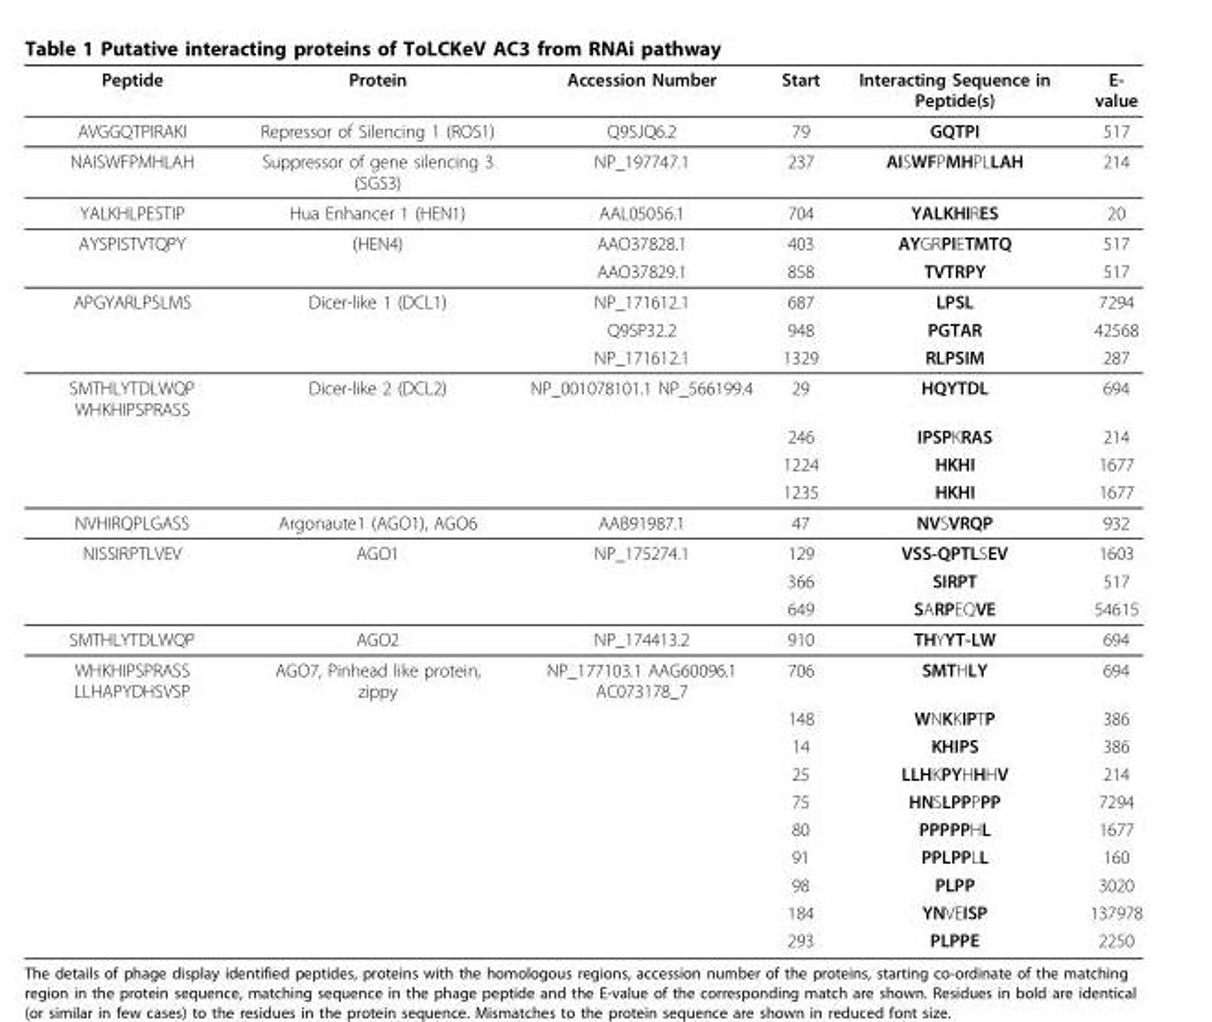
<table><thead><tr><td>Peptide</td><td>Protein</td><td>Accession Number</td><td>Start</td><td>Interacting Sequence in Peptide(s)</td><td>E- value</td></tr></thead><tbody><tr><td>AVGGQTPIRAKI</td><td>Repressor of Silencing 1 (ROS1)</td><td>Q9SJQ6.2</td><td>79</td><td>GQTPI</td><td>517</td></tr><tr><td>NAISWFPMHLAH</td><td>Suppressor of gene silencing 3 (SGS3)</td><td>NP_197747.1</td><td>237</td><td>AISWFPMHPLLAH</td><td>214</td></tr><tr><td>YALKHLPESTIP</td><td>Hua Enhancer 1 (HEN1)</td><td>AAL05056.1</td><td>704</td><td>YALKHIRES</td><td>20</td></tr><tr><td rowspan="2">AYSPISTVTQPY</td><td>(HEN4)</td><td>AAO37828.1</td><td>403</td><td>AYGRPIETMTQ</td><td>517</td></tr><tr><td></td><td>AAO37829.1</td><td>858</td><td>TVTRPY</td><td>517</td></tr><tr><td rowspan="3">APGYARLPSLMS</td><td>Dicer-like 1 (DCL1)</td><td>NP_171612.1</td><td>687</td><td>LPSL</td><td>7294</td></tr><tr><td></td><td>Q9SP32.2</td><td>948</td><td>PGTAR</td><td>42568</td></tr><tr><td></td><td>NP_171612.1</td><td>1329</td><td>RLPSIM</td><td>287</td></tr><tr><td rowspan="4">SMTHLYTDLWQP WHKHIPSPRASS</td><td>Dicer-like 2 (DCL2)</td><td>NP_001078101.1 NP_566199.4</td><td>29</td><td>HQYTDL</td><td>694</td></tr><tr><td></td><td></td><td>246</td><td>IPSPKRAS</td><td>214</td></tr><tr><td></td><td></td><td>1224</td><td>HKHI</td><td>1677</td></tr><tr><td></td><td></td><td>1235</td><td>HKHI</td><td>1677</td></tr><tr><td>NVHIRQPLGASS</td><td>Argonaute1 (AGO1), AGO6</td><td>AAB91987.1</td><td>47</td><td>NVSVRQP</td><td>932</td></tr><tr><td rowspan="3">NISSIRPTLVEV</td><td>AGO1</td><td>NP_175274.1</td><td>129</td><td>VSS-QPTLSEV</td><td>1603</td></tr><tr><td></td><td></td><td>366</td><td>SIRPT</td><td>517</td></tr><tr><td></td><td></td><td>649</td><td>SARPEQVE</td><td>54615</td></tr><tr><td>SMTHLYTDLWQP</td><td>AGO2</td><td>NP_174413.2</td><td>910</td><td>THYYT-LW</td><td>694</td></tr><tr><td rowspan="10">WHKHIPSPRASS LLHAPYDHSVSP</td><td>AGO7, Pinhead like protein, zippy</td><td>NP_177103.1 AAG60096.1 AC073178_7</td><td>706</td><td>SMTHLY</td><td>694</td></tr><tr><td></td><td></td><td>148</td><td>WNKKIPTP</td><td>386</td></tr><tr><td></td><td></td><td>14</td><td>KHIPS</td><td>386</td></tr><tr><td></td><td></td><td>25</td><td>LLHKPYHHHV</td><td>214</td></tr><tr><td></td><td></td><td>75</td><td>HNSLPPPPP</td><td>7294</td></tr><tr><td></td><td></td><td>80</td><td>PPPPPHL</td><td>1677</td></tr><tr><td></td><td></td><td>91</td><td>PPLPPLL</td><td>160</td></tr><tr><td></td><td></td><td>98</td><td>PLPP</td><td>3020</td></tr><tr><td></td><td></td><td>184</td><td>YNVEISP</td><td>137978</td></tr><tr><td></td><td></td><td>293</td><td>PLPPE</td><td>2250</td></tr></tbody></table>